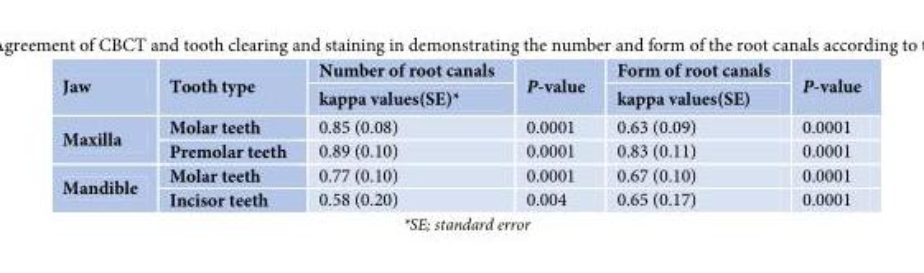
<table><thead><tr><td rowspan="2">Jaw</td><td rowspan="2">Tooth type</td><td rowspan="2">Number of root canals kappa values(SE)*</td><td rowspan="2">P-value</td><td rowspan="2">Form of root canals kappa values(SE)</td><td rowspan="2">P-value</td></tr><tr></tr></thead><tbody><tr><td rowspan="2">Maxilla</td><td>Molar teeth</td><td>0.85 (0.08)</td><td>0.0001</td><td>0.63 (0.09)</td><td>0.0001</td></tr><tr><td>Premolar teeth</td><td>0.89 (0.10)</td><td>0.0001</td><td>0.83 (0.11)</td><td>0.0001</td></tr><tr><td rowspan="2">Mandible</td><td>Molar teeth</td><td>0.77 (0.10)</td><td>0.0001</td><td>0.67 (0.10)</td><td>0.0001</td></tr><tr><td>Incisor teeth</td><td>0.58 (0.20)</td><td>0.004</td><td>0.65 (0.17)</td><td>0.0001</td></tr></tbody></table>